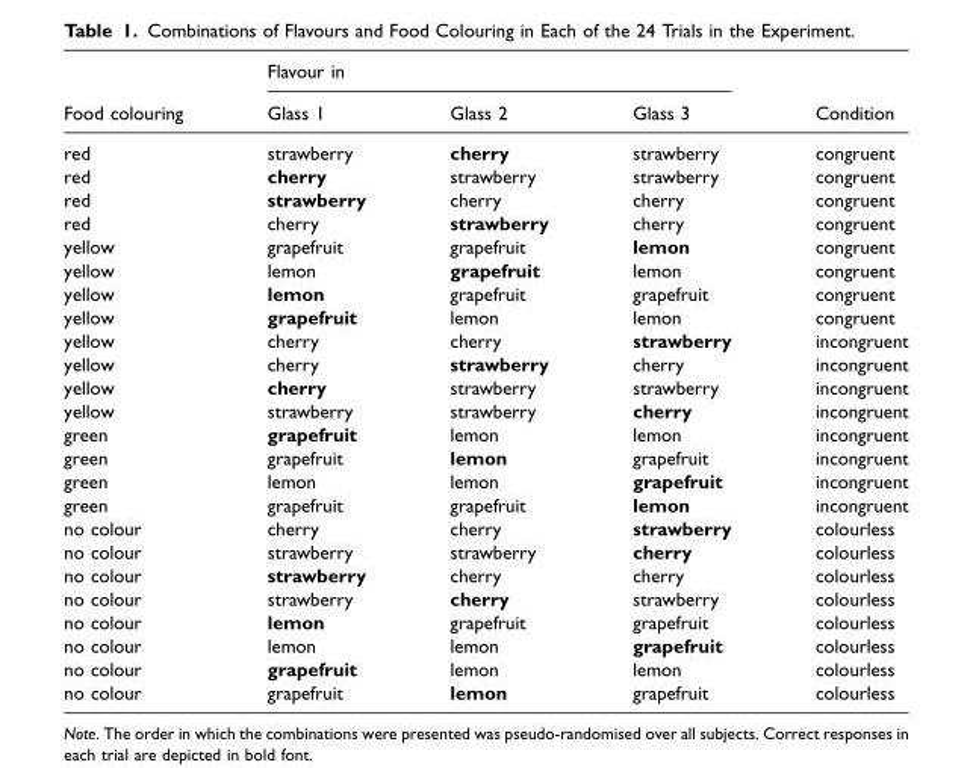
<table><thead><tr><td rowspan="2">Food colouring</td><td colspan="3">Flavour in</td><td rowspan="2">Condition</td></tr><tr><td>Glass 1</td><td>Glass 2</td><td>Glass 3</td></tr></thead><tbody><tr><td>red</td><td>strawberry</td><td>cherry</td><td>strawberry</td><td>congruent</td></tr><tr><td>red</td><td>cherry</td><td>strawberry</td><td>strawberry</td><td>congruent</td></tr><tr><td>red</td><td>strawberry</td><td>cherry</td><td>cherry</td><td>congruent</td></tr><tr><td>red</td><td>cherry</td><td>strawberry</td><td>cherry</td><td>congruent</td></tr><tr><td>yellow</td><td>grapefruit</td><td>grapefruit</td><td>lemon</td><td>congruent</td></tr><tr><td>yellow</td><td>lemon</td><td>grapefruit</td><td>lemon</td><td>congruent</td></tr><tr><td>yellow</td><td>lemon</td><td>grapefruit</td><td>grapefruit</td><td>congruent</td></tr><tr><td>yellow</td><td>grapefruit</td><td>lemon</td><td>lemon</td><td>congruent</td></tr><tr><td>yellow</td><td>cherry</td><td>cherry</td><td>strawberry</td><td>incongruent</td></tr><tr><td>yellow</td><td>cherry</td><td>strawberry</td><td>cherry</td><td>incongruent</td></tr><tr><td>yellow</td><td>cherry</td><td>strawberry</td><td>strawberry</td><td>incongruent</td></tr><tr><td>yellow</td><td>strawberry</td><td>strawberry</td><td>cherry</td><td>incongruent</td></tr><tr><td>green</td><td>grapefruit</td><td>lemon</td><td>lemon</td><td>incongruent</td></tr><tr><td>green</td><td>grapefruit</td><td>lemon</td><td>grapefruit</td><td>incongruent</td></tr><tr><td>green</td><td>lemon</td><td>lemon</td><td>grapefruit</td><td>incongruent</td></tr><tr><td>green</td><td>grapefruit</td><td>grapefruit</td><td>lemon</td><td>incongruent</td></tr><tr><td>no colour</td><td>cherry</td><td>cherry</td><td>strawberry</td><td>colourless</td></tr><tr><td>no colour</td><td>strawberry</td><td>strawberry</td><td>cherry</td><td>colourless</td></tr><tr><td>no colour</td><td>strawberry</td><td>cherry</td><td>cherry</td><td>colourless</td></tr><tr><td>no colour</td><td>strawberry</td><td>cherry</td><td>strawberry</td><td>colourless</td></tr><tr><td>no colour</td><td>lemon</td><td>grapefruit</td><td>grapefruit</td><td>colourless</td></tr><tr><td>no colour</td><td>lemon</td><td>lemon</td><td>grapefruit</td><td>colourless</td></tr><tr><td>no colour</td><td>grapefruit</td><td>lemon</td><td>lemon</td><td>colourless</td></tr><tr><td>no colour</td><td>grapefruit</td><td>lemon</td><td>grapefruit</td><td>colourless</td></tr></tbody></table>